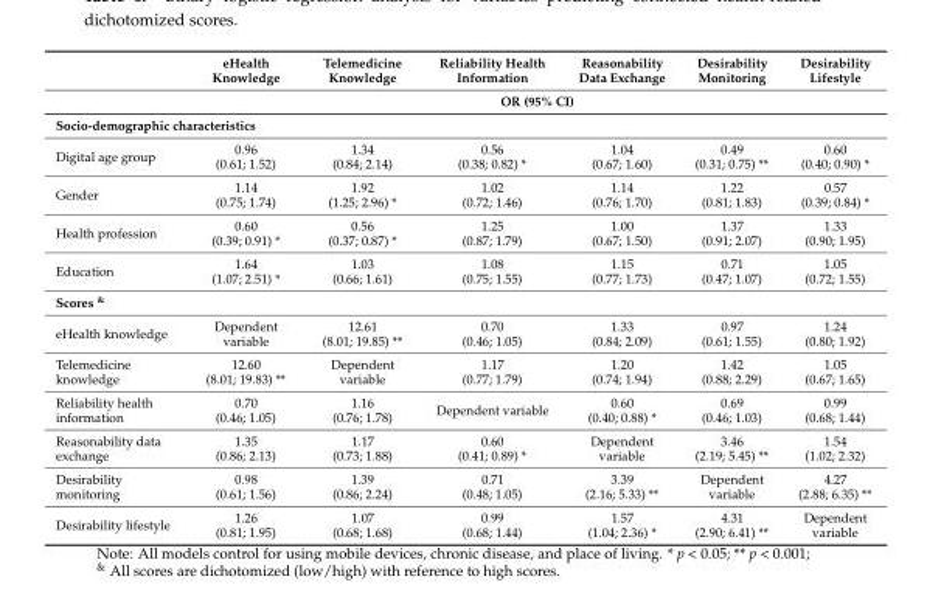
<table><thead><tr><td rowspan="2"></td><td>eHealth Knowledge</td><td>Telemedicine Knowledge</td><td>Reliability Health Information</td><td>Reasonability Data Exchange</td><td>Desirability Monitoring</td><td>Desirability Lifestyle</td></tr><tr><td colspan="6">OR (95% CI)</td></tr></thead><tbody><tr><td colspan="7">Socio-demographic characteristics</td></tr><tr><td>Digital age group</td><td>0.96 (0.61; 1.52)</td><td>1.34 (0.84; 2.14)</td><td>0.56 (0.38; 0.82) *</td><td>1.04 (0.67; 1.60)</td><td>0.49 (0.31; 0.75) **</td><td>0.60 (0.40; 0.90) *</td></tr><tr><td>Gender</td><td>1.14 (0.75; 1.74)</td><td>1.92 (1.25; 2.96) *</td><td>1.02 (0.72; 1.46)</td><td>1.14 (0.76; 1.70)</td><td>1.22 (0.81; 1.83)</td><td>0.57 (0.39; 0.84) *</td></tr><tr><td>Health profession</td><td>0.60 (0.39; 0.91) *</td><td>0.56 (0.37; 0.87) *</td><td>1.25 (0.87; 1.79)</td><td>1.00 (0.67; 1.50)</td><td>1.37 (0.91; 2.07)</td><td>1.33 (0.90; 1.95)</td></tr><tr><td>Education</td><td>1.64 (1.07; 2.51) *</td><td>1.03 (0.66; 1.61)</td><td>1.08 (0.75; 1.55)</td><td>1.15 (0.77; 1.73)</td><td>0.71 (0.47; 1.07)</td><td>1.05 (0.72; 1.55)</td></tr><tr><td colspan="7">Scores <sup>&amp;</sup></td></tr><tr><td>eHealth knowledge</td><td>Dependent variable</td><td>12.61 (8.01; 19.85) **</td><td>0.70 (0.46; 1.05)</td><td>1.33 (0.84; 2.09)</td><td>0.97 (0.61; 1.55)</td><td>1.24 (0.80; 1.92)</td></tr><tr><td>Telemedicine knowledge</td><td>12.60 (8.01; 19.83) **</td><td>Dependent variable</td><td>1.17 (0.77; 1.79)</td><td>1.20 (0.74; 1.94)</td><td>1.42 (0.88; 2.29)</td><td>1.05 (0.67; 1.65)</td></tr><tr><td>Reliability health information</td><td>0.70 (0.46; 1.05)</td><td>1.16 (0.76; 1.78)</td><td>Dependent variable</td><td>0.60 (0.40; 0.88) *</td><td>0.69 (0.46; 1.03)</td><td>0.99 (0.68; 1.44)</td></tr><tr><td>Reasonability data exchange</td><td>1.35 (0.86; 2.13)</td><td>1.17 (0.73; 1.88)</td><td>0.60 (0.41; 0.89) *</td><td>Dependent variable</td><td>3.46 (2.19; 5.45) **</td><td>1.54 (1.02; 2.32)</td></tr><tr><td>Desirability monitoring</td><td>0.98 (0.61; 1.56)</td><td>1.39 (0.86; 2.24)</td><td>0.71 (0.48; 1.05)</td><td>3.39 (2.16; 5.33) **</td><td>Dependent variable</td><td>4.27 (2.88; 6.35) **</td></tr><tr><td>Desirability lifestyle</td><td>1.26 (0.81; 1.95)</td><td>1.07 (0.68; 1.68)</td><td>0.99 (0.68; 1.44)</td><td>1.57 (1.04; 2.36) *</td><td>4.31 (2.90; 6.41) **</td><td>Dependent variable</td></tr></tbody></table>